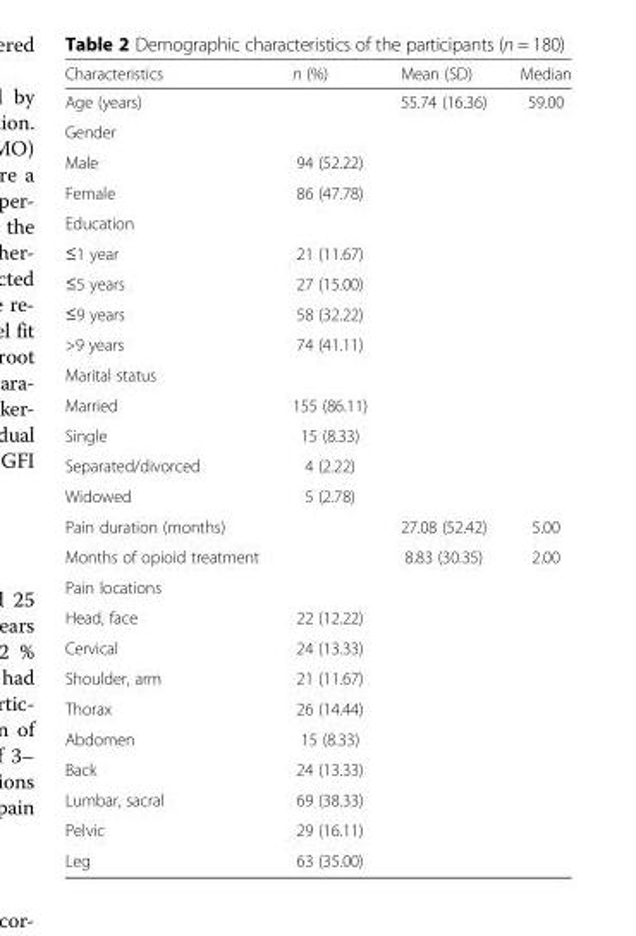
<table><thead><tr><td>Characteristics</td><td>n (%)</td><td>Mean (SD)</td><td>Median</td></tr></thead><tbody><tr><td>Age (years)</td><td></td><td>55.74 (16.36)</td><td>59.00</td></tr><tr><td colspan="4">Gender</td></tr><tr><td>Male</td><td>94 (52.22)</td><td></td><td></td></tr><tr><td>Female</td><td>86 (47.78)</td><td></td><td></td></tr><tr><td colspan="4">Education</td></tr><tr><td>≤1 year</td><td>21 (11.67)</td><td></td><td></td></tr><tr><td>≤5 years</td><td>27 (15.00)</td><td></td><td></td></tr><tr><td>≤9 years</td><td>58 (32.22)</td><td></td><td></td></tr><tr><td>&gt;9 years</td><td>74 (41.11)</td><td></td><td></td></tr><tr><td colspan="4">Marital status</td></tr><tr><td>Married</td><td>155 (86.11)</td><td></td><td></td></tr><tr><td>Single</td><td>15 (8.33)</td><td></td><td></td></tr><tr><td>Separated/divorced</td><td>4 (2.22)</td><td></td><td></td></tr><tr><td>Widowed</td><td>5 (2.78)</td><td></td><td></td></tr><tr><td>Pain duration (months)</td><td></td><td>27.08 (52.42)</td><td>5.00</td></tr><tr><td>Months of opioid treatment</td><td></td><td>8.83 (30.35)</td><td>2.00</td></tr><tr><td colspan="4">Pain locations</td></tr><tr><td>Head, face</td><td>22 (12.22)</td><td></td><td></td></tr><tr><td>Cervical</td><td>24 (13.33)</td><td></td><td></td></tr><tr><td>Shoulder, arm</td><td>21 (11.67)</td><td></td><td></td></tr><tr><td>Thorax</td><td>26 (14.44)</td><td></td><td></td></tr><tr><td>Abdomen</td><td>15 (8.33)</td><td></td><td></td></tr><tr><td>Back</td><td>24 (13.33)</td><td></td><td></td></tr><tr><td>Lumbar, sacral</td><td>69 (38.33)</td><td></td><td></td></tr><tr><td>Pelvic</td><td>29 (16.11)</td><td></td><td></td></tr><tr><td>Leg</td><td>63 (35.00)</td><td></td><td></td></tr></tbody></table>